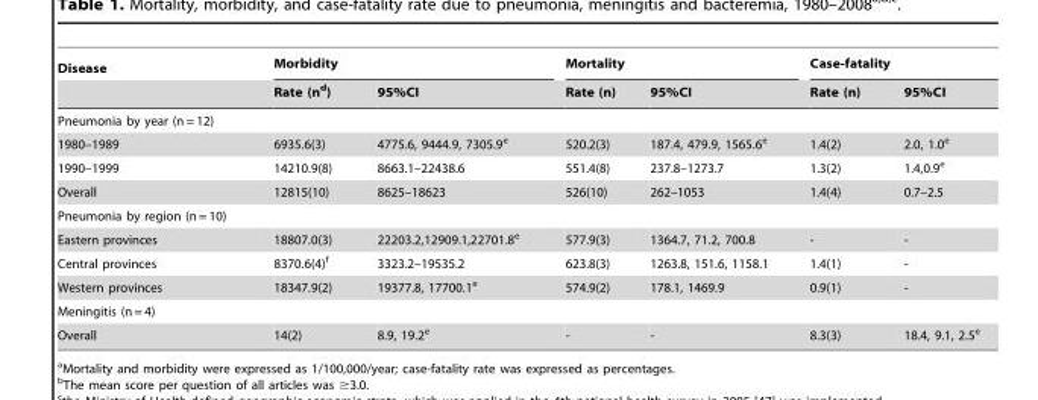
<table><thead><tr><td rowspan="2">Disease</td><td colspan="2">Morbidity</td><td colspan="2">Mortality</td><td colspan="2">Case-fatality</td></tr><tr><td>Rate (n<sup>d</sup>)</td><td>95%CI</td><td>Rate (n)</td><td>95%CI</td><td>Rate (n)</td><td>95%CI</td></tr></thead><tbody><tr><td colspan="7">Pneumonia by year (n = 12)</td></tr><tr><td>1980–1989</td><td>6935.6(3)</td><td>4775.6, 9444.9, 7305.9<sup>e</sup></td><td>520.2(3)</td><td>187.4, 479.9, 1565.6<sup>e</sup></td><td>1.4(2)</td><td>2.0, 1.0<sup>e</sup></td></tr><tr><td>1990–1999</td><td>14210.9(8)</td><td>8663.1–22438.6</td><td>551.4(8)</td><td>237.8–1273.7</td><td>1.3(2)</td><td>1.4,0.9<sup>e</sup></td></tr><tr><td>Overall</td><td>12815(10)</td><td>8625–18623</td><td>526(10)</td><td>262–1053</td><td>1.4(4)</td><td>0.7–2.5</td></tr><tr><td colspan="7">Pneumonia by region (n = 10)</td></tr><tr><td>Eastern provinces</td><td>18807.0(3)</td><td>22203.2,12909.1,22701.8<sup>e</sup></td><td>577.9(3)</td><td>1364.7, 71.2, 700.8</td><td>-</td><td>-</td></tr><tr><td>Central provinces</td><td>8370.6(4)<sup>f</sup></td><td>3323.2–19535.2</td><td>623.8(3)</td><td>1263.8, 151.6, 1158.1</td><td>1.4(1)</td><td>-</td></tr><tr><td>Western provinces</td><td>18347.9(2)</td><td>19377.8, 17700.1<sup>e</sup></td><td>574.9(2)</td><td>178.1, 1469.9</td><td>0.9(1)</td><td>-</td></tr><tr><td colspan="7">Meningitis (n = 4)</td></tr><tr><td>Overall</td><td>14(2)</td><td>8.9, 19.2<sup>e</sup></td><td>-</td><td>-</td><td>8.3(3)</td><td>18.4, 9.1, 2.5<sup>e</sup></td></tr></tbody></table>